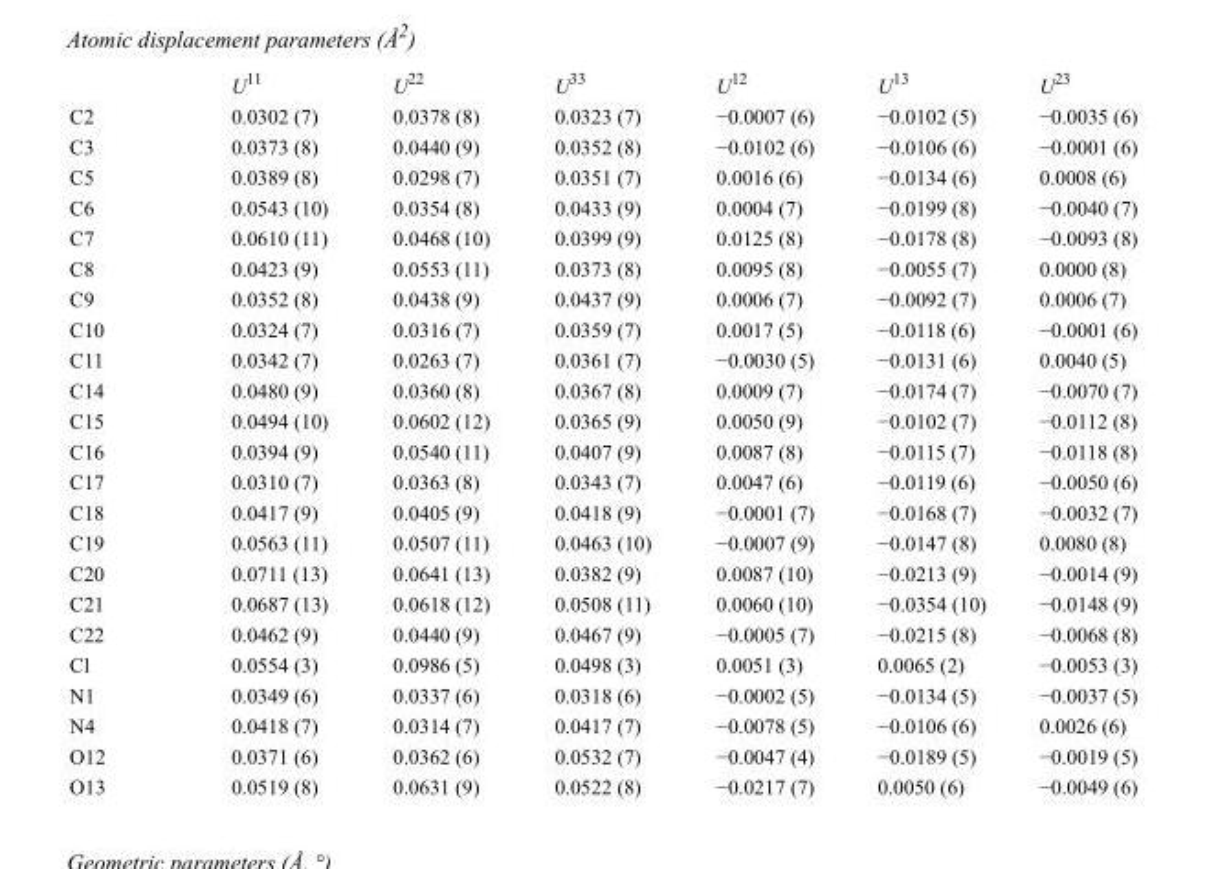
<table><thead><tr><td></td><td>U<sup>11</sup></td><td>U<sup>22</sup></td><td>U<sup>33</sup></td><td>U<sup>12</sup></td><td>U<sup>13</sup></td><td>U<sup>23</sup></td></tr></thead><tbody><tr><td>C2</td><td>0.0302 (7)</td><td>0.0378 (8)</td><td>0.0323 (7)</td><td>−0.0007 (6)</td><td>−0.0102 (5)</td><td>−0.0035 (6)</td></tr><tr><td>C3</td><td>0.0373 (8)</td><td>0.0440 (9)</td><td>0.0352 (8)</td><td>−0.0102 (6)</td><td>−0.0106 (6)</td><td>−0.0001 (6)</td></tr><tr><td>C5</td><td>0.0389 (8)</td><td>0.0298 (7)</td><td>0.0351 (7)</td><td>0.0016 (6)</td><td>−0.0134 (6)</td><td>0.0008 (6)</td></tr><tr><td>C6</td><td>0.0543 (10)</td><td>0.0354 (8)</td><td>0.0433 (9)</td><td>0.0004 (7)</td><td>−0.0199 (8)</td><td>−0.0040 (7)</td></tr><tr><td>C7</td><td>0.0610 (11)</td><td>0.0468 (10)</td><td>0.0399 (9)</td><td>0.0125 (8)</td><td>−0.0178 (8)</td><td>−0.0093 (8)</td></tr><tr><td>C8</td><td>0.0423 (9)</td><td>0.0553 (11)</td><td>0.0373 (8)</td><td>0.0095 (8)</td><td>−0.0055 (7)</td><td>0.0000 (8)</td></tr><tr><td>C9</td><td>0.0352 (8)</td><td>0.0438 (9)</td><td>0.0437 (9)</td><td>0.0006 (7)</td><td>−0.0092 (7)</td><td>0.0006 (7)</td></tr><tr><td>C10</td><td>0.0324 (7)</td><td>0.0316 (7)</td><td>0.0359 (7)</td><td>0.0017 (5)</td><td>−0.0118 (6)</td><td>−0.0001 (6)</td></tr><tr><td>C11</td><td>0.0342 (7)</td><td>0.0263 (7)</td><td>0.0361 (7)</td><td>−0.0030 (5)</td><td>−0.0131 (6)</td><td>0.0040 (5)</td></tr><tr><td>C14</td><td>0.0480 (9)</td><td>0.0360 (8)</td><td>0.0367 (8)</td><td>0.0009 (7)</td><td>−0.0174 (7)</td><td>−0.0070 (7)</td></tr><tr><td>C15</td><td>0.0494 (10)</td><td>0.0602 (12)</td><td>0.0365 (9)</td><td>0.0050 (9)</td><td>−0.0102 (7)</td><td>−0.0112 (8)</td></tr><tr><td>C16</td><td>0.0394 (9)</td><td>0.0540 (11)</td><td>0.0407 (9)</td><td>0.0087 (8)</td><td>−0.0115 (7)</td><td>−0.0118 (8)</td></tr><tr><td>C17</td><td>0.0310 (7)</td><td>0.0363 (8)</td><td>0.0343 (7)</td><td>0.0047 (6)</td><td>−0.0119 (6)</td><td>−0.0050 (6)</td></tr><tr><td>C18</td><td>0.0417 (9)</td><td>0.0405 (9)</td><td>0.0418 (9)</td><td>−0.0001 (7)</td><td>−0.0168 (7)</td><td>−0.0032 (7)</td></tr><tr><td>C19</td><td>0.0563 (11)</td><td>0.0507 (11)</td><td>0.0463 (10)</td><td>−0.0007 (9)</td><td>−0.0147 (8)</td><td>0.0080 (8)</td></tr><tr><td>C20</td><td>0.0711 (13)</td><td>0.0641 (13)</td><td>0.0382 (9)</td><td>0.0087 (10)</td><td>−0.0213 (9)</td><td>−0.0014 (9)</td></tr><tr><td>C21</td><td>0.0687 (13)</td><td>0.0618 (12)</td><td>0.0508 (11)</td><td>0.0060 (10)</td><td>−0.0354 (10)</td><td>−0.0148 (9)</td></tr><tr><td>C22</td><td>0.0462 (9)</td><td>0.0440 (9)</td><td>0.0467 (9)</td><td>−0.0005 (7)</td><td>−0.0215 (8)</td><td>−0.0068 (8)</td></tr><tr><td>Cl</td><td>0.0554 (3)</td><td>0.0986 (5)</td><td>0.0498 (3)</td><td>0.0051 (3)</td><td>0.0065 (2)</td><td>−0.0053 (3)</td></tr><tr><td>N1</td><td>0.0349 (6)</td><td>0.0337 (6)</td><td>0.0318 (6)</td><td>−0.0002 (5)</td><td>−0.0134 (5)</td><td>−0.0037 (5)</td></tr><tr><td>N4</td><td>0.0418 (7)</td><td>0.0314 (7)</td><td>0.0417 (7)</td><td>−0.0078 (5)</td><td>−0.0106 (6)</td><td>0.0026 (6)</td></tr><tr><td>O12</td><td>0.0371 (6)</td><td>0.0362 (6)</td><td>0.0532 (7)</td><td>−0.0047 (4)</td><td>−0.0189 (5)</td><td>−0.0019 (5)</td></tr><tr><td>O13</td><td>0.0519 (8)</td><td>0.0631 (9)</td><td>0.0522 (8)</td><td>−0.0217 (7)</td><td>0.0050 (6)</td><td>−0.0049 (6)</td></tr></tbody></table>